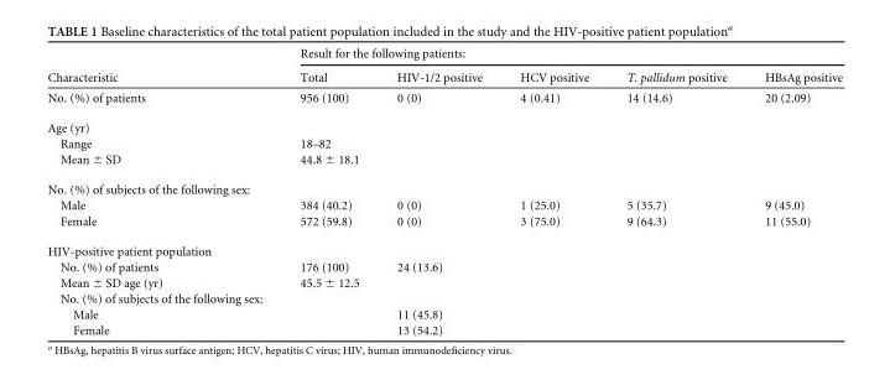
<table><thead><tr><td rowspan="2">Characteristic</td><td colspan="5">Result for the following patients:</td></tr><tr><td>Total</td><td>HIV-1/2 positive</td><td>HCV positive</td><td>T. pallidum positive</td><td>HBsAg positive</td></tr></thead><tbody><tr><td>No. (%) of patients</td><td>956 (100)</td><td>0 (0)</td><td>4 (0.41)</td><td>14 (14.6)</td><td>20 (2.09)</td></tr><tr><td colspan="6">Age (yr)</td></tr><tr><td>Range</td><td>18–82</td><td></td><td></td><td></td><td></td></tr><tr><td>Mean ± SD</td><td>44.8 ± 18.1</td><td></td><td></td><td></td><td></td></tr><tr><td colspan="6">No. (%) of subjects of the following sex:</td></tr><tr><td>Male</td><td>384 (40.2)</td><td>0 (0)</td><td>1 (25.0)</td><td>5 (35.7)</td><td>9 (45.0)</td></tr><tr><td>Female</td><td>572 (59.8)</td><td>0 (0)</td><td>3 (75.0)</td><td>9 (64.3)</td><td>11 (55.0)</td></tr><tr><td colspan="6">HIV-positive patient population</td></tr><tr><td>No. (%) of patients</td><td>176 (100)</td><td>24 (13.6)</td><td></td><td></td><td></td></tr><tr><td>Mean ± SD age (yr)</td><td>45.5 ± 12.5</td><td></td><td></td><td></td><td></td></tr><tr><td colspan="6">No. (%) of subjects of the following sex:</td></tr><tr><td>Male</td><td></td><td>11 (45.8)</td><td></td><td></td><td></td></tr><tr><td>Female</td><td></td><td>13 (54.2)</td><td></td><td></td><td></td></tr></tbody></table>